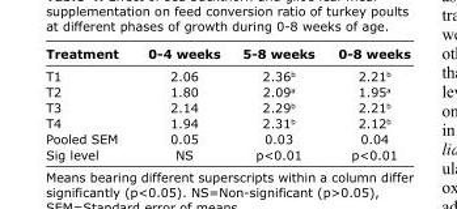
<table><thead><tr><td>Treatment</td><td>0-4 weeks</td><td>5-8 weeks</td><td>0-8 weeks</td></tr></thead><tbody><tr><td>T1</td><td>2.06</td><td>2.36<sup>b</sup></td><td>2.21<sup>b</sup></td></tr><tr><td>T2</td><td>1.80</td><td>2.09<sup>a</sup></td><td>1.95<sup>a</sup></td></tr><tr><td>T3</td><td>2.14</td><td>2.29<sup>b</sup></td><td>2.21<sup>b</sup></td></tr><tr><td>T4</td><td>1.94</td><td>2.31<sup>b</sup></td><td>2.12<sup>b</sup></td></tr><tr><td>Pooled SEM</td><td>0.05</td><td>0.03</td><td>0.04</td></tr><tr><td>Sig level</td><td>NS</td><td>p&lt;0.01</td><td>p&lt;0.01</td></tr></tbody></table>